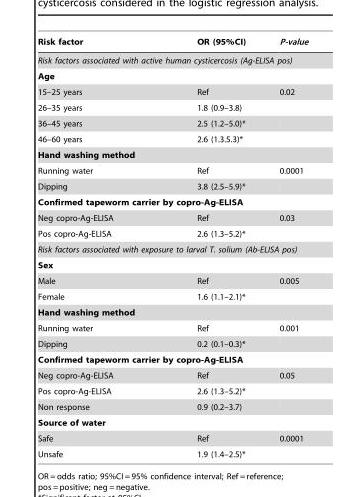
<table><thead><tr><td>Risk factor</td><td>OR (95%CI)</td><td>P-value</td></tr></thead><tbody><tr><td colspan="3">Risk factors associated with active human cysticercosis (Ag-ELISA pos)</td></tr><tr><td colspan="3">Age</td></tr><tr><td>15–25 years</td><td>Ref</td><td>0.02</td></tr><tr><td>26–35 years</td><td>1.8 (0.9–3.8)</td><td></td></tr><tr><td>36–45 years</td><td>2.5 (1.2–5.0)*</td><td></td></tr><tr><td>46–60 years</td><td>2.6 (1.3.5.3)*</td><td></td></tr><tr><td colspan="3">Hand washing method</td></tr><tr><td>Running water</td><td>Ref</td><td>0.0001</td></tr><tr><td>Dipping</td><td>3.8 (2.5–5.9)*</td><td></td></tr><tr><td colspan="3">Confirmed tapeworm carrier by copro-Ag-ELISA</td></tr><tr><td>Neg copro-Ag-ELISA</td><td>Ref</td><td>0.03</td></tr><tr><td>Pos copro-Ag-ELISA</td><td>2.6 (1.3–5.2)*</td><td></td></tr><tr><td colspan="3">Risk factors associated with exposure to larval T. solium (Ab-ELISA pos)</td></tr><tr><td colspan="3">Sex</td></tr><tr><td>Male</td><td>Ref</td><td>0.005</td></tr><tr><td>Female</td><td>1.6 (1.1–2.1)*</td><td></td></tr><tr><td colspan="3">Hand washing method</td></tr><tr><td>Running water</td><td>Ref</td><td>0.001</td></tr><tr><td>Dipping</td><td>0.2 (0.1–0.3)*</td><td></td></tr><tr><td colspan="3">Confirmed tapeworm carrier by copro-Ag-ELISA</td></tr><tr><td>Neg copro-Ag-ELISA</td><td>Ref</td><td>0.05</td></tr><tr><td>Pos copro-Ag-ELISA</td><td>2.6 (1.3–5.2)*</td><td></td></tr><tr><td>Non response</td><td>0.9 (0.2–3.7)</td><td></td></tr><tr><td colspan="3">Source of water</td></tr><tr><td>Safe</td><td>Ref</td><td>0.0001</td></tr><tr><td>Unsafe</td><td>1.9 (1.4–2.5)*</td><td></td></tr></tbody></table>